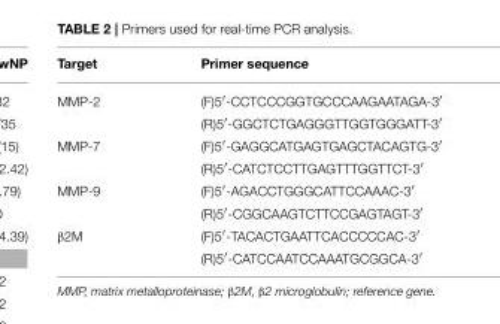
<table><thead><tr><td>Target</td><td>Primer sequence</td></tr></thead><tbody><tr><td rowspan="2">MMP-2</td><td>(F)5′-CCTCCCGGTGCCCAAGAATAGA-3′</td></tr><tr><td>(R)5′-GGCTCTGAGGGTTGGTGGGATT-3′</td></tr><tr><td rowspan="2">MMP-7</td><td>(F)5′-GAGGCATGAGTGAGCTACAGTG-3′</td></tr><tr><td>(R)5′-CATCTCCTTGAGTTTGGTTCT-3′</td></tr><tr><td rowspan="2">MMP-9</td><td>(F)5′-AGACCTGGGCATTCCAAAC-3′</td></tr><tr><td>(R)5′-CGGCAAGTCTTCCGAGTAGT-3′</td></tr><tr><td rowspan="2">β2M</td><td>(F)5′-TACACTGAATTCACCCCCAC-3′</td></tr><tr><td>(R)5′-CATCCAATCCAAATGCGGCA-3′</td></tr></tbody></table>